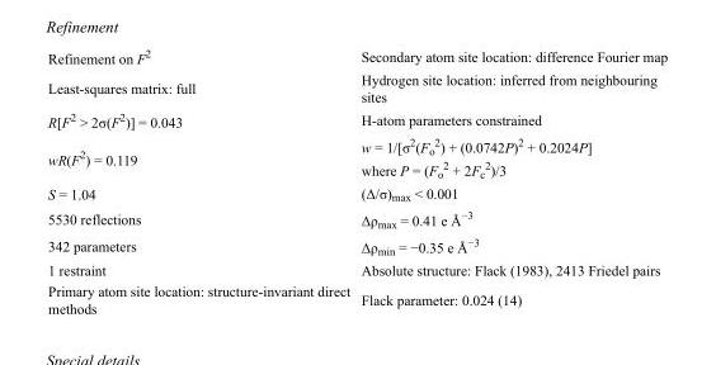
<table><tbody><tr><td>Refinement on F<sup>2</sup></td><td>Secondary atom site location: difference Fourier map</td></tr><tr><td>Least-squares matrix: full</td><td>Hydrogen site location: inferred from neighbouring sites</td></tr><tr><td>R[F<sup>2</sup> &gt; 2σ(F<sup>2</sup>)] = 0.043</td><td>H-atom parameters constrained</td></tr><tr><td>wR(F<sup>2</sup>) = 0.119</td><td>w = 1/[σ<sup>2</sup>(F<sub>o</sub> <sup>2</sup>) + (0.0742P)<sup>2</sup> + 0.2024P] where P = (F<sub>o</sub> <sup>2</sup> + 2F<sub>c</sub> <sup>2</sup>)/3</td></tr><tr><td>S = 1.04</td><td>(Δ/σ)<sub>max</sub> &lt; 0.001</td></tr><tr><td>5530 reflections</td><td>Δρ<sub>max</sub> = 0.41 e Å<sup>−3</sup></td></tr><tr><td>342 parameters</td><td>Δρ<sub>min</sub> = −0.35 e Å<sup>−3</sup></td></tr><tr><td>1 restraint</td><td>Absolute structure: Flack (1983), 2413 Friedel pairs</td></tr><tr><td>Primary atom site location: structure-invariant direct methods</td><td>Flack parameter: 0.024 (14)</td></tr></tbody></table>